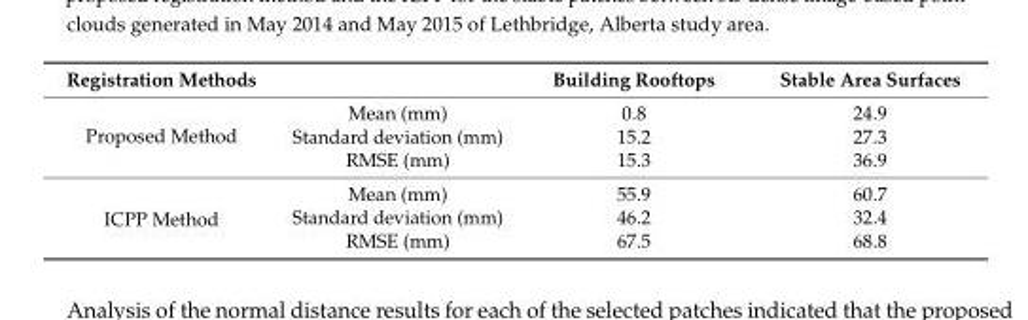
<table><thead><tr><td>Registration Methods</td><td></td><td>Building Rooftops</td><td>Stable Area Surfaces</td></tr></thead><tbody><tr><td rowspan="3">Proposed Method</td><td>Mean (mm)</td><td>0.8</td><td>24.9</td></tr><tr><td>Standard deviation (mm)</td><td>15.2</td><td>27.3</td></tr><tr><td>RMSE (mm)</td><td>15.3</td><td>36.9</td></tr><tr><td rowspan="3">ICPP Method</td><td>Mean (mm)</td><td>55.9</td><td>60.7</td></tr><tr><td>Standard deviation (mm)</td><td>46.2</td><td>32.4</td></tr><tr><td>RMSE (mm)</td><td>67.5</td><td>68.8</td></tr></tbody></table>